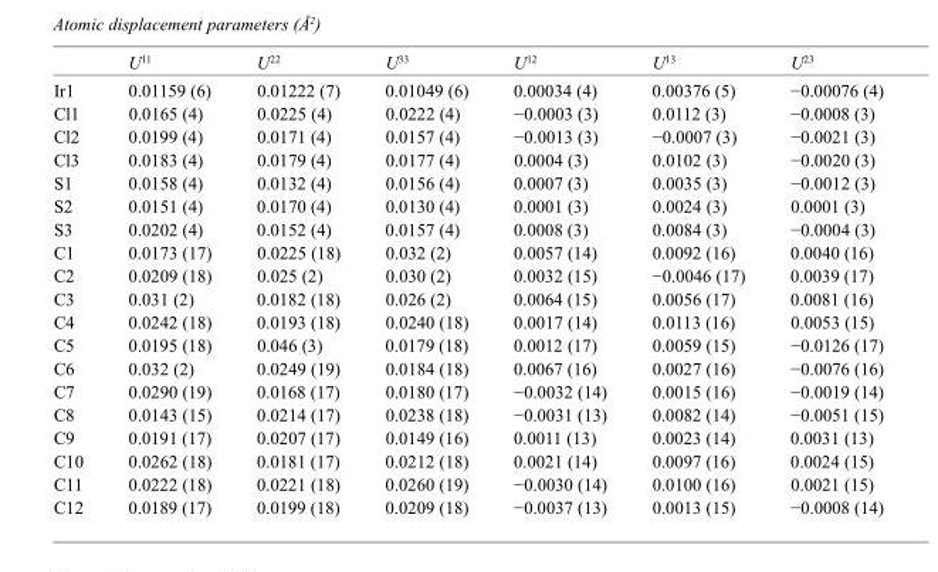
<table><thead><tr><td></td><td>U<sup>11</sup></td><td>U<sup>22</sup></td><td>U<sup>33</sup></td><td>U<sup>12</sup></td><td>U<sup>13</sup></td><td>U<sup>23</sup></td></tr></thead><tbody><tr><td>Ir1</td><td>0.01159 (6)</td><td>0.01222 (7)</td><td>0.01049 (6)</td><td>0.00034 (4)</td><td>0.00376 (5)</td><td>−0.00076 (4)</td></tr><tr><td>Cl1</td><td>0.0165 (4)</td><td>0.0225 (4)</td><td>0.0222 (4)</td><td>−0.0003 (3)</td><td>0.0112 (3)</td><td>−0.0008 (3)</td></tr><tr><td>Cl2</td><td>0.0199 (4)</td><td>0.0171 (4)</td><td>0.0157 (4)</td><td>−0.0013 (3)</td><td>−0.0007 (3)</td><td>−0.0021 (3)</td></tr><tr><td>Cl3</td><td>0.0183 (4)</td><td>0.0179 (4)</td><td>0.0177 (4)</td><td>0.0004 (3)</td><td>0.0102 (3)</td><td>−0.0020 (3)</td></tr><tr><td>S1</td><td>0.0158 (4)</td><td>0.0132 (4)</td><td>0.0156 (4)</td><td>0.0007 (3)</td><td>0.0035 (3)</td><td>−0.0012 (3)</td></tr><tr><td>S2</td><td>0.0151 (4)</td><td>0.0170 (4)</td><td>0.0130 (4)</td><td>0.0001 (3)</td><td>0.0024 (3)</td><td>0.0001 (3)</td></tr><tr><td>S3</td><td>0.0202 (4)</td><td>0.0152 (4)</td><td>0.0157 (4)</td><td>0.0008 (3)</td><td>0.0084 (3)</td><td>−0.0004 (3)</td></tr><tr><td>C1</td><td>0.0173 (17)</td><td>0.0225 (18)</td><td>0.032 (2)</td><td>0.0057 (14)</td><td>0.0092 (16)</td><td>0.0040 (16)</td></tr><tr><td>C2</td><td>0.0209 (18)</td><td>0.025 (2)</td><td>0.030 (2)</td><td>0.0032 (15)</td><td>−0.0046 (17)</td><td>0.0039 (17)</td></tr><tr><td>C3</td><td>0.031 (2)</td><td>0.0182 (18)</td><td>0.026 (2)</td><td>0.0064 (15)</td><td>0.0056 (17)</td><td>0.0081 (16)</td></tr><tr><td>C4</td><td>0.0242 (18)</td><td>0.0193 (18)</td><td>0.0240 (18)</td><td>0.0017 (14)</td><td>0.0113 (16)</td><td>0.0053 (15)</td></tr><tr><td>C5</td><td>0.0195 (18)</td><td>0.046 (3)</td><td>0.0179 (18)</td><td>0.0012 (17)</td><td>0.0059 (15)</td><td>−0.0126 (17)</td></tr><tr><td>C6</td><td>0.032 (2)</td><td>0.0249 (19)</td><td>0.0184 (18)</td><td>0.0067 (16)</td><td>0.0027 (16)</td><td>−0.0076 (16)</td></tr><tr><td>C7</td><td>0.0290 (19)</td><td>0.0168 (17)</td><td>0.0180 (17)</td><td>−0.0032 (14)</td><td>0.0015 (16)</td><td>−0.0019 (14)</td></tr><tr><td>C8</td><td>0.0143 (15)</td><td>0.0214 (17)</td><td>0.0238 (18)</td><td>−0.0031 (13)</td><td>0.0082 (14)</td><td>−0.0051 (15)</td></tr><tr><td>C9</td><td>0.0191 (17)</td><td>0.0207 (17)</td><td>0.0149 (16)</td><td>0.0011 (13)</td><td>0.0023 (14)</td><td>0.0031 (13)</td></tr><tr><td>C10</td><td>0.0262 (18)</td><td>0.0181 (17)</td><td>0.0212 (18)</td><td>0.0021 (14)</td><td>0.0097 (16)</td><td>0.0024 (15)</td></tr><tr><td>C11</td><td>0.0222 (18)</td><td>0.0221 (18)</td><td>0.0260 (19)</td><td>−0.0030 (14)</td><td>0.0100 (16)</td><td>0.0021 (15)</td></tr><tr><td>C12</td><td>0.0189 (17)</td><td>0.0199 (18)</td><td>0.0209 (18)</td><td>−0.0037 (13)</td><td>0.0013 (15)</td><td>−0.0008 (14)</td></tr></tbody></table>